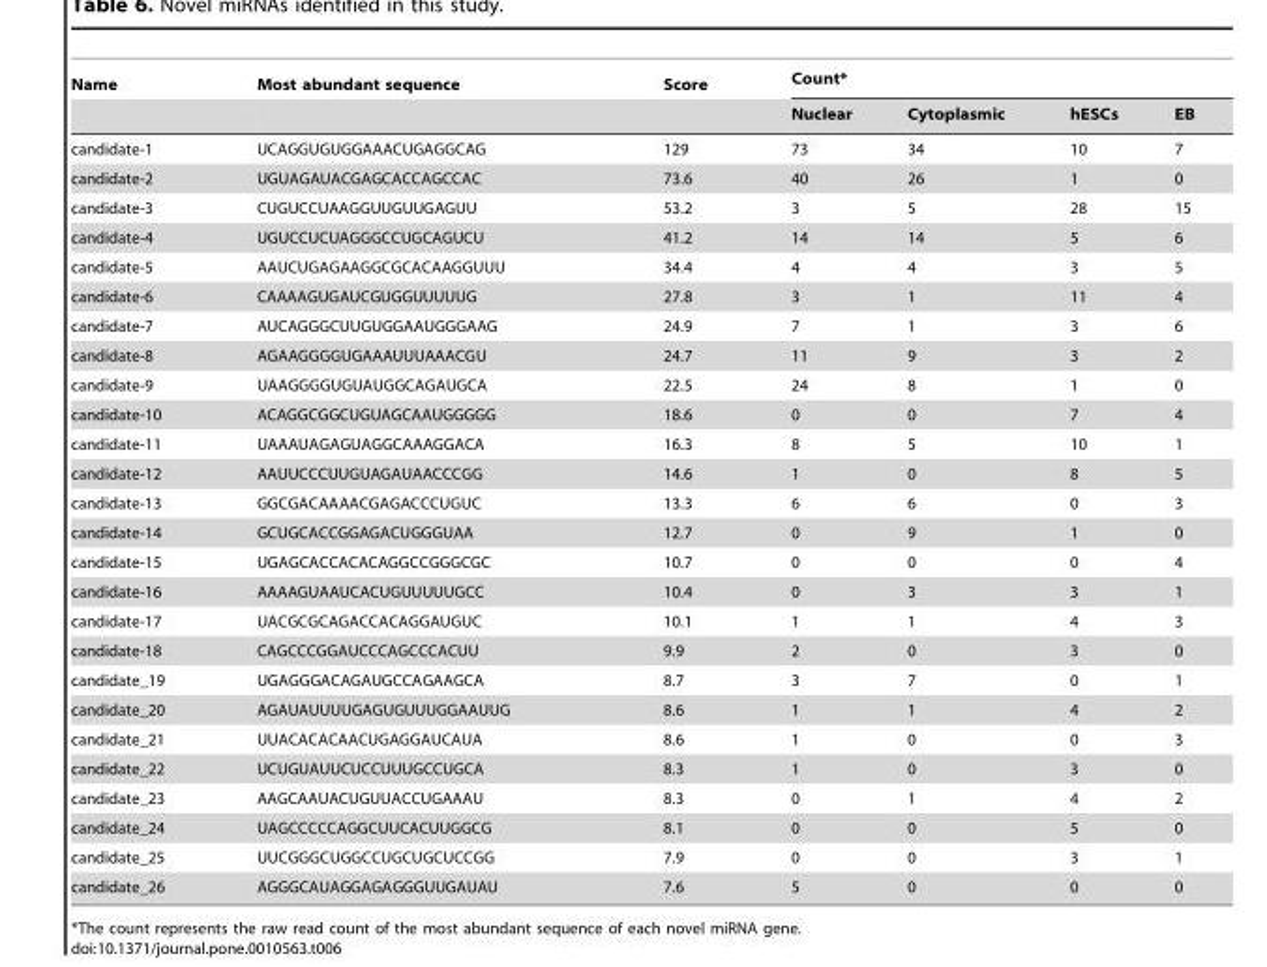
<table><thead><tr><td rowspan="2">Name</td><td rowspan="2">Most abundant sequence</td><td rowspan="2">Score</td><td colspan="4">Count*</td></tr><tr><td>Nuclear</td><td>Cytoplasmic</td><td>hESCs</td><td>EB</td></tr></thead><tbody><tr><td>candidate-1</td><td>UCAGGUGUGGAAACUGAGGCAG</td><td>129</td><td>73</td><td>34</td><td>10</td><td>7</td></tr><tr><td>candidate-2</td><td>UGUAGAUACGAGCACCAGCCAC</td><td>73.6</td><td>40</td><td>26</td><td>1</td><td>0</td></tr><tr><td>candidate-3</td><td>CUGUCCUAAGGUUGUUGAGUU</td><td>53.2</td><td>3</td><td>5</td><td>28</td><td>15</td></tr><tr><td>candidate-4</td><td>UGUCCUCUAGGGCCUGCAGUCU</td><td>41.2</td><td>14</td><td>14</td><td>5</td><td>6</td></tr><tr><td>candidate-5</td><td>AAUCUGAGAAGGCGCACAAGGUUU</td><td>34.4</td><td>4</td><td>4</td><td>3</td><td>5</td></tr><tr><td>candidate-6</td><td>CAAAAGUGAUCGUGGUUUUUG</td><td>27.8</td><td>3</td><td>1</td><td>11</td><td>4</td></tr><tr><td>candidate-7</td><td>AUCAGGGCUUGUGGAAUGGGAAG</td><td>24.9</td><td>7</td><td>1</td><td>3</td><td>6</td></tr><tr><td>candidate-8</td><td>AGAAGGGGUGAAAUUUAAACGU</td><td>24.7</td><td>11</td><td>9</td><td>3</td><td>2</td></tr><tr><td>candidate-9</td><td>UAAGGGGUGUAUGGCAGAUGCA</td><td>22.5</td><td>24</td><td>8</td><td>1</td><td>0</td></tr><tr><td>candidate-10</td><td>ACAGGCGGCUGUAGCAAUGGGGG</td><td>18.6</td><td>0</td><td>0</td><td>7</td><td>4</td></tr><tr><td>candidate-11</td><td>UAAAUAGAGUAGGCAAAGGACA</td><td>16.3</td><td>8</td><td>5</td><td>10</td><td>1</td></tr><tr><td>candidate-12</td><td>AAUUCCCUUGUAGAUAACCCGG</td><td>14.6</td><td>1</td><td>0</td><td>8</td><td>5</td></tr><tr><td>candidate-13</td><td>GGCGACAAAACGAGACCCUGUC</td><td>13.3</td><td>6</td><td>6</td><td>0</td><td>3</td></tr><tr><td>candidate-14</td><td>GCUGCACCGGAGACUGGGUAA</td><td>12.7</td><td>0</td><td>9</td><td>1</td><td>0</td></tr><tr><td>candidate-15</td><td>UGAGCACCACACAGGCCGGGCGC</td><td>10.7</td><td>0</td><td>0</td><td>0</td><td>4</td></tr><tr><td>candidate-16</td><td>AAAAGUAAUCACUGUUUUUGCC</td><td>10.4</td><td>0</td><td>3</td><td>3</td><td>1</td></tr><tr><td>candidate-17</td><td>UACGCGCAGACCACAGGAUGUC</td><td>10.1</td><td>1</td><td>1</td><td>4</td><td>3</td></tr><tr><td>candidate-18</td><td>CAGCCCGGAUCCCAGCCCACUU</td><td>9.9</td><td>2</td><td>0</td><td>3</td><td>0</td></tr><tr><td>candidate_19</td><td>UGAGGGACAGAUGCCAGAAGCA</td><td>8.7</td><td>3</td><td>7</td><td>0</td><td>1</td></tr><tr><td>candidate_20</td><td>AGAUAUUUUGAGUGUUUGGAAUUG</td><td>8.6</td><td>1</td><td>1</td><td>4</td><td>2</td></tr><tr><td>candidate_21</td><td>UUACACACAACUGAGGAUCAUA</td><td>8.6</td><td>1</td><td>0</td><td>0</td><td>3</td></tr><tr><td>candidate_22</td><td>UCUGUAUUCUCCUUUGCCUGCA</td><td>8.3</td><td>1</td><td>0</td><td>3</td><td>0</td></tr><tr><td>candidate_23</td><td>AAGCAAUACUGUUACCUGAAAU</td><td>8.3</td><td>0</td><td>1</td><td>4</td><td>2</td></tr><tr><td>candidate_24</td><td>UAGCCCCCAGGCUUCACUUGGCG</td><td>8.1</td><td>0</td><td>0</td><td>5</td><td>0</td></tr><tr><td>candidate_25</td><td>UUCGGGCUGGCCUGCUGCUCCGG</td><td>7.9</td><td>0</td><td>0</td><td>3</td><td>1</td></tr><tr><td>candidate_26</td><td>AGGGCAUAGGAGAGGGUUGAUAU</td><td>7.6</td><td>5</td><td>0</td><td>0</td><td>0</td></tr></tbody></table>